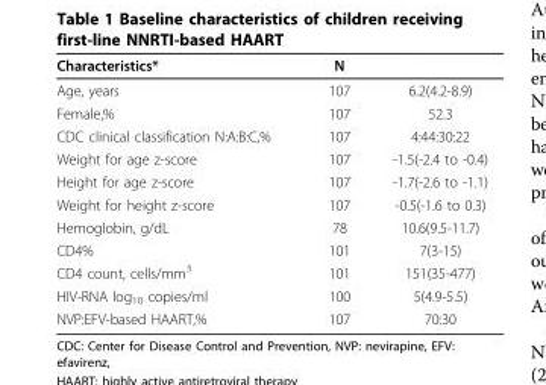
<table><thead><tr><td>Characteristics*</td><td>N</td><td></td></tr></thead><tbody><tr><td>Age, years</td><td>107</td><td>6.2(4.2-8.9)</td></tr><tr><td>Female,%</td><td>107</td><td>52.3</td></tr><tr><td>CDC clinical classification N:A:B:C,%</td><td>107</td><td>4:44:30:22</td></tr><tr><td>Weight for age z-score</td><td>107</td><td>-1.5(-2.4 to -0.4)</td></tr><tr><td>Height for age z-score</td><td>107</td><td>-1.7(-2.6 to -1.1)</td></tr><tr><td>Weight for height z-score</td><td>107</td><td>-0.5(-1.6 to 0.3)</td></tr><tr><td>Hemoglobin, g/dL</td><td>78</td><td>10.6(9.5-11.7)</td></tr><tr><td>CD4%</td><td>101</td><td>7(3-15)</td></tr><tr><td>CD4 count, cells/mm<sup>3</sup></td><td>101</td><td>151(35-477)</td></tr><tr><td>HIV-RNA log<sub>10</sub> copies/ml</td><td>100</td><td>5(4.9-5.5)</td></tr><tr><td>NVP:EFV-based HAART,%</td><td>107</td><td>70:30</td></tr></tbody></table>